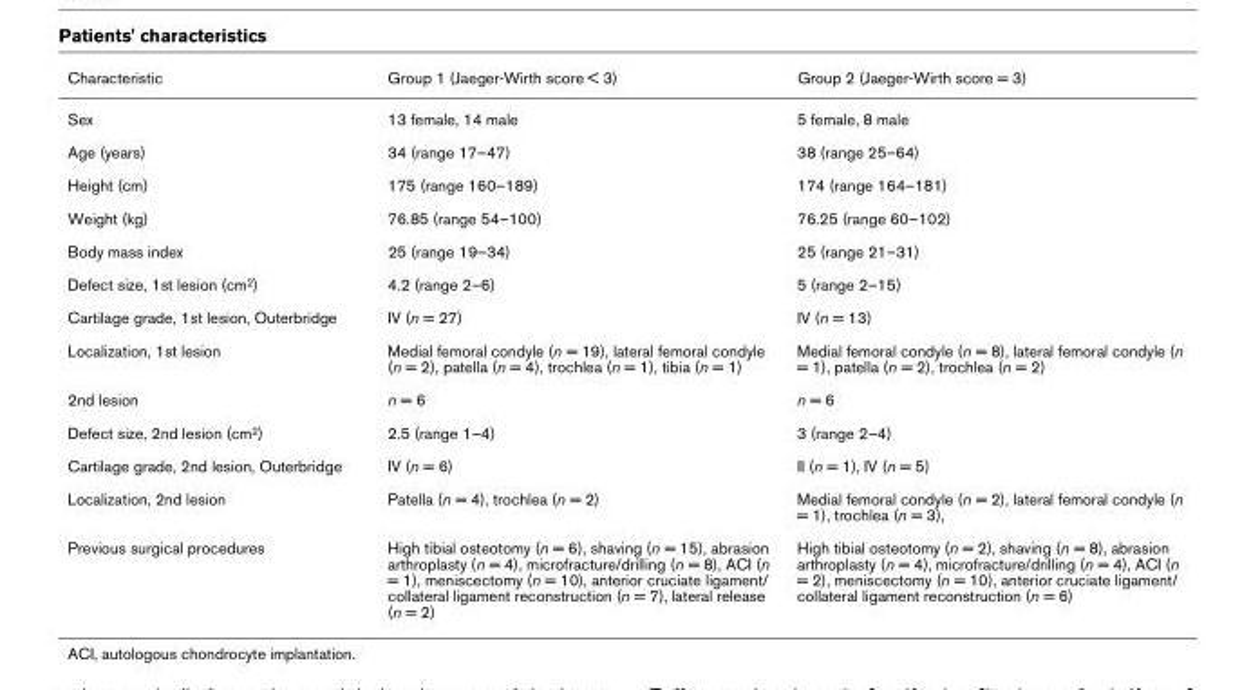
<table><thead><tr><td>Characteristic</td><td>Group 1 (Jaeger-Wirth score &lt; 3)</td><td>Group 2 (Jaeger-Wirth score = 3)</td></tr></thead><tbody><tr><td>Sex</td><td>13 female, 14 male</td><td>5 female, 8 male</td></tr><tr><td>Age (years)</td><td>34 (range 17–47)</td><td>38 (range 25–64)</td></tr><tr><td>Height (cm)</td><td>175 (range 160–189)</td><td>174 (range 164–181)</td></tr><tr><td>Weight (kg)</td><td>76.85 (range 54–100)</td><td>76.25 (range 60–102)</td></tr><tr><td>Body mass index</td><td>25 (range 19–34)</td><td>25 (range 21–31)</td></tr><tr><td>Defect size, 1st lesion (cm<sup>2</sup>)</td><td>4.2 (range 2–6)</td><td>5 (range 2–15)</td></tr><tr><td>Cartilage grade, 1st lesion, Outerbridge</td><td>IV (n = 27)</td><td>IV (n = 13)</td></tr><tr><td>Localization, 1st lesion</td><td>Medial femoral condyle (n = 19), lateral femoral condyle (n = 2), patella (n = 4), trochlea (n = 1), tibia (n = 1)</td><td>Medial femoral condyle (n = 8), lateral femoral condyle (n = 1), patella (n = 2), trochlea (n = 2)</td></tr><tr><td>2nd lesion</td><td>n = 6</td><td>n = 6</td></tr><tr><td>Defect size, 2nd lesion (cm<sup>2</sup>)</td><td>2.5 (range 1–4)</td><td>3 (range 2–4)</td></tr><tr><td>Cartilage grade, 2nd lesion, Outerbridge</td><td>IV (n = 6)</td><td>II (n = 1), IV (n = 5)</td></tr><tr><td>Localization, 2nd lesion</td><td>Patella (n = 4), trochlea (n = 2)</td><td>Medial femoral condyle (n = 2), lateral femoral condyle (n = 1), trochlea (n = 3),</td></tr><tr><td>Previous surgical procedures</td><td>High tibial osteotomy (n = 6), shaving (n = 15), abrasion arthroplasty (n = 4), microfracture/drilling (n = 8), ACI (n = 1), meniscectomy (n = 10), anterior cruciate ligament/ collateral ligament reconstruction (n = 7), lateral release (n = 2)</td><td>High tibial osteotomy (n = 2), shaving (n = 8), abrasion arthroplasty (n = 4), microfracture/drilling (n = 4), ACI (n = 2), meniscectomy (n = 10), anterior cruciate ligament/ collateral ligament reconstruction (n = 6)</td></tr></tbody></table>